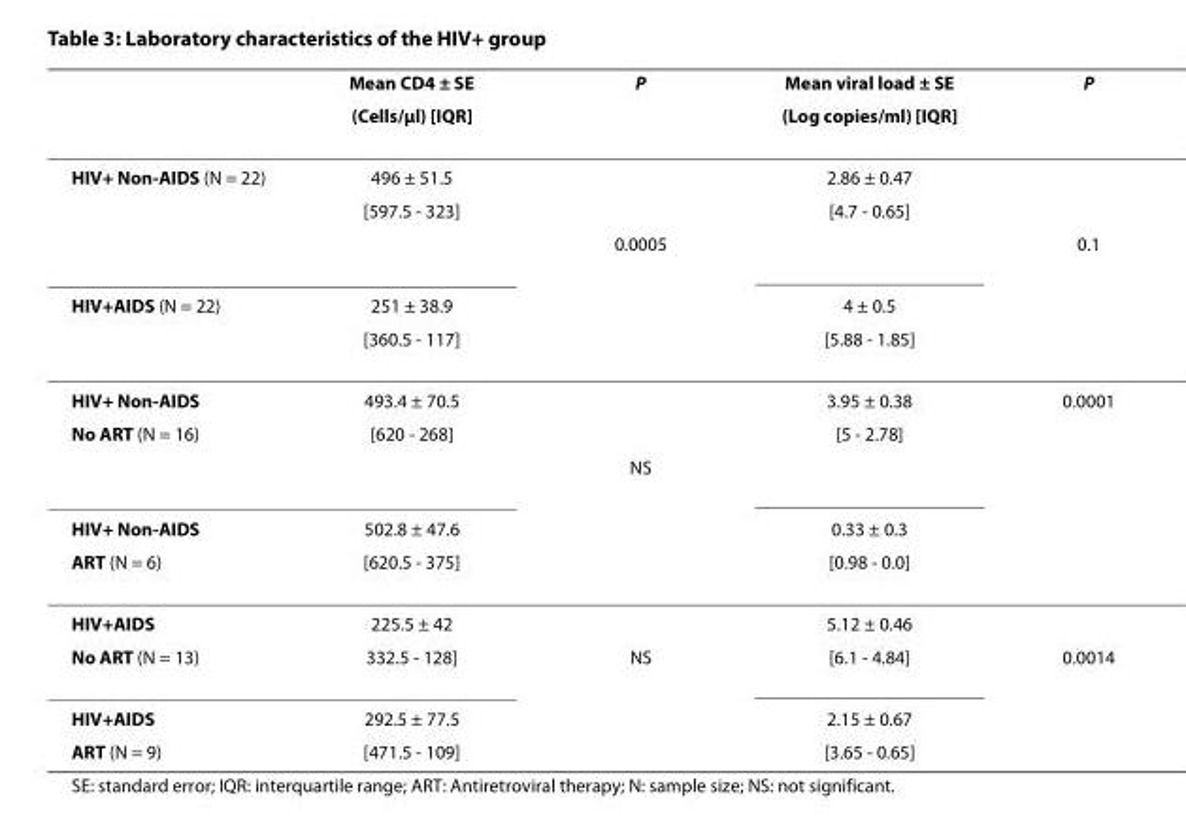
<table><thead><tr><td rowspan="2"></td><td rowspan="2">Mean CD4 ± SE (Cells/μl) [IQR]</td><td rowspan="2">P</td><td rowspan="2">Mean viral load ± SE (Log copies/ml) [IQR]</td><td rowspan="2">P</td></tr><tr></tr></thead><tbody><tr><td rowspan="3">HIV+ Non-AIDS (N = 22)</td><td>496 ± 51.5</td><td></td><td>2.86 ± 0.47</td><td></td></tr><tr><td>[597.5 - 323]</td><td></td><td>[4.7 - 0.65]</td><td></td></tr><tr><td></td><td>0.0005</td><td></td><td>0.1</td></tr><tr><td rowspan="2">HIV+AIDS (N = 22)</td><td>251 ± 38.9</td><td></td><td>4 ± 0.5</td><td></td></tr><tr><td>[360.5 - 117]</td><td></td><td>[5.88 - 1.85]</td><td></td></tr><tr><td>HIV+ Non-AIDS</td><td>493.4 ± 70.5</td><td></td><td>3.95 ± 0.38</td><td>0.0001</td></tr><tr><td rowspan="2">No ART (N = 16)</td><td>[620 - 268]</td><td></td><td>[5 - 2.78]</td><td></td></tr><tr><td></td><td>NS</td><td></td><td></td></tr><tr><td>HIV+ Non-AIDS</td><td>502.8 ± 47.6</td><td></td><td>0.33 ± 0.3</td><td></td></tr><tr><td>ART (N = 6)</td><td>[620.5 - 375]</td><td></td><td>[0.98 - 0.0]</td><td></td></tr><tr><td>HIV+AIDS</td><td>225.5 ± 42</td><td></td><td>5.12 ± 0.46</td><td></td></tr><tr><td>No ART (N = 13)</td><td>332.5 - 128]</td><td>NS</td><td>[6.1 - 4.84]</td><td>0.0014</td></tr><tr><td>HIV+AIDS</td><td>292.5 ± 77.5</td><td></td><td>2.15 ± 0.67</td><td></td></tr><tr><td>ART (N = 9)</td><td>[471.5 - 109]</td><td></td><td>[3.65 - 0.65]</td><td></td></tr></tbody></table>